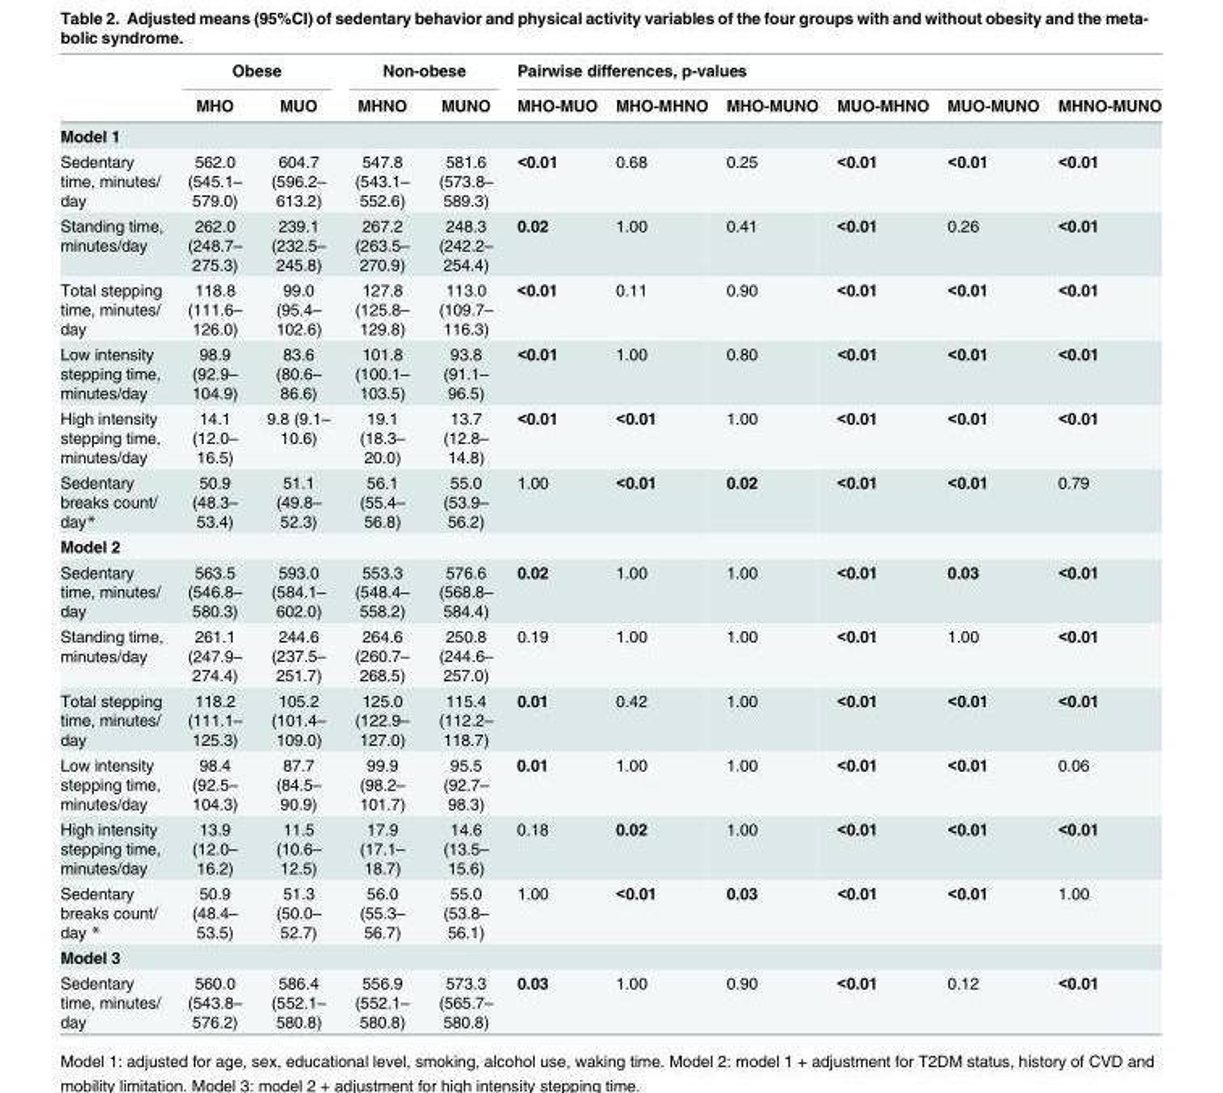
<table><thead><tr><td rowspan="2"></td><td colspan="2">Obese</td><td colspan="2">Non-obese</td><td colspan="6">Pairwise differences, p-values</td></tr><tr><td>MHO</td><td>MUO</td><td>MHNO</td><td>MUNO</td><td>MHO-MUO</td><td>MHO-MHNO</td><td>MHO-MUNO</td><td>MUO-MHNO</td><td>MUO-MUNO</td><td>MHNO-MUNO</td></tr></thead><tbody><tr><td colspan="11">Model 1</td></tr><tr><td>Sedentary time, minutes/ day</td><td>562.0 (545.1– 579.0)</td><td>604.7 (596.2– 613.2)</td><td>547.8 (543.1– 552.6)</td><td>581.6 (573.8– 589.3)</td><td>&lt;0.01</td><td>0.68</td><td>0.25</td><td>&lt;0.01</td><td>&lt;0.01</td><td>&lt;0.01</td></tr><tr><td>Standing time, minutes/day</td><td>262.0 (248.7– 275.3)</td><td>239.1 (232.5– 245.8)</td><td>267.2 (263.5– 270.9)</td><td>248.3 (242.2– 254.4)</td><td>0.02</td><td>1.00</td><td>0.41</td><td>&lt;0.01</td><td>0.26</td><td>&lt;0.01</td></tr><tr><td>Total stepping time, minutes/ day</td><td>118.8 (111.6– 126.0)</td><td>99.0 (95.4– 102.6)</td><td>127.8 (125.8– 129.8)</td><td>113.0 (109.7– 116.3)</td><td>&lt;0.01</td><td>0.11</td><td>0.90</td><td>&lt;0.01</td><td>&lt;0.01</td><td>&lt;0.01</td></tr><tr><td>Low intensity stepping time, minutes/day</td><td>98.9 (92.9– 104.9)</td><td>83.6 (80.6– 86.6)</td><td>101.8 (100.1– 103.5)</td><td>93.8 (91.1– 96.5)</td><td>&lt;0.01</td><td>1.00</td><td>0.80</td><td>&lt;0.01</td><td>&lt;0.01</td><td>&lt;0.01</td></tr><tr><td>High intensity stepping time, minutes/day</td><td>14.1 (12.0– 16.5)</td><td>9.8 (9.1– 10.6)</td><td>19.1 (18.3– 20.0)</td><td>13.7 (12.8– 14.8)</td><td>&lt;0.01</td><td>&lt;0.01</td><td>1.00</td><td>&lt;0.01</td><td>&lt;0.01</td><td>&lt;0.01</td></tr><tr><td>Sedentary breaks count/ day*</td><td>50.9 (48.3– 53.4)</td><td>51.1 (49.8– 52.3)</td><td>56.1 (55.4– 56.8)</td><td>55.0 (53.9– 56.2)</td><td>1.00</td><td>&lt;0.01</td><td>0.02</td><td>&lt;0.01</td><td>&lt;0.01</td><td>0.79</td></tr><tr><td colspan="11">Model 2</td></tr><tr><td>Sedentary time, minutes/ day</td><td>563.5 (546.8– 580.3)</td><td>593.0 (584.1– 602.0)</td><td>553.3 (548.4– 558.2)</td><td>576.6 (568.8– 584.4)</td><td>0.02</td><td>1.00</td><td>1.00</td><td>&lt;0.01</td><td>0.03</td><td>&lt;0.01</td></tr><tr><td>Standing time, minutes/day</td><td>261.1 (247.9– 274.4)</td><td>244.6 (237.5– 251.7)</td><td>264.6 (260.7– 268.5)</td><td>250.8 (244.6– 257.0)</td><td>0.19</td><td>1.00</td><td>1.00</td><td>&lt;0.01</td><td>1.00</td><td>&lt;0.01</td></tr><tr><td>Total stepping time, minutes/ day</td><td>118.2 (111.1– 125.3)</td><td>105.2 (101.4– 109.0)</td><td>125.0 (122.9– 127.0)</td><td>115.4 (112.2– 118.7)</td><td>0.01</td><td>0.42</td><td>1.00</td><td>&lt;0.01</td><td>&lt;0.01</td><td>&lt;0.01</td></tr><tr><td>Low intensity stepping time, minutes/day</td><td>98.4 (92.5– 104.3)</td><td>87.7 (84.5– 90.9)</td><td>99.9 (98.2– 101.7)</td><td>95.5 (92.7– 98.3)</td><td>0.01</td><td>1.00</td><td>1.00</td><td>&lt;0.01</td><td>&lt;0.01</td><td>0.06</td></tr><tr><td>High intensity stepping time, minutes/day</td><td>13.9 (12.0– 16.2)</td><td>11.5 (10.6– 12.5)</td><td>17.9 (17.1– 18.7)</td><td>14.6 (13.5– 15.6)</td><td>0.18</td><td>0.02</td><td>1.00</td><td>&lt;0.01</td><td>&lt;0.01</td><td>&lt;0.01</td></tr><tr><td>Sedentary breaks count/ day *</td><td>50.9 (48.4– 53.5)</td><td>51.3 (50.0– 52.7)</td><td>56.0 (55.3– 56.7)</td><td>55.0 (53.8– 56.1)</td><td>1.00</td><td>&lt;0.01</td><td>0.03</td><td>&lt;0.01</td><td>&lt;0.01</td><td>1.00</td></tr><tr><td colspan="11">Model 3</td></tr><tr><td>Sedentary time, minutes/ day</td><td>560.0 (543.8– 576.2)</td><td>586.4 (552.1– 580.8)</td><td>556.9 (552.1– 580.8)</td><td>573.3 (565.7– 580.8)</td><td>0.03</td><td>1.00</td><td>0.90</td><td>&lt;0.01</td><td>0.12</td><td>&lt;0.01</td></tr></tbody></table>